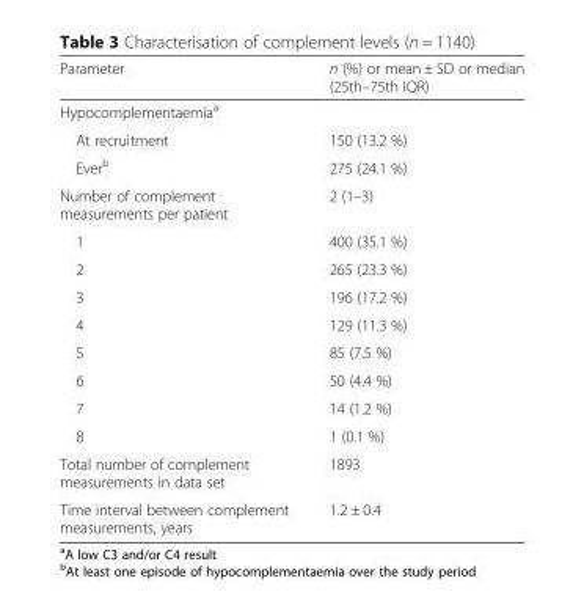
<table><thead><tr><td>Parameter</td><td>n (%) or mean ± SD or median (25th–75th IQR)</td></tr></thead><tbody><tr><td colspan="2">Hypocomplementaemia<sup>a</sup></td></tr><tr><td>At recruitment</td><td>150 (13.2 %)</td></tr><tr><td>Ever<sup>b</sup></td><td>275 (24.1 %)</td></tr><tr><td>Number of complement measurements per patient</td><td>2 (1–3)</td></tr><tr><td>1</td><td>400 (35.1 %)</td></tr><tr><td>2</td><td>265 (23.3 %)</td></tr><tr><td>3</td><td>196 (17.2 %)</td></tr><tr><td>4</td><td>129 (11.3 %)</td></tr><tr><td>5</td><td>85 (7.5 %)</td></tr><tr><td>6</td><td>50 (4.4 %)</td></tr><tr><td>7</td><td>14 (1.2 %)</td></tr><tr><td>8</td><td>1 (0.1 %)</td></tr><tr><td>Total number of complement measurements in data set</td><td>1893</td></tr><tr><td>Time interval between complement measurements, years</td><td>1.2 ± 0.4</td></tr></tbody></table>